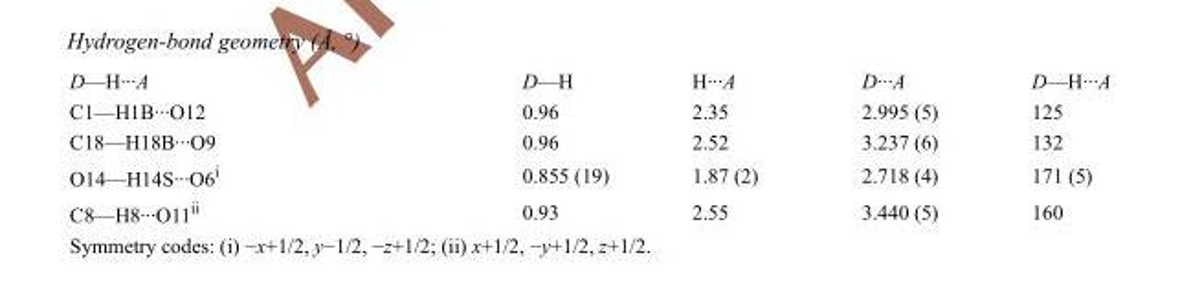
<table><tbody><tr><td>D—H···A</td><td>D—H</td><td>H···A</td><td>D···A</td><td>D—H···A</td></tr><tr><td>C1—H1B···O12</td><td>0.96</td><td>2.35</td><td>2.995 (5)</td><td>125</td></tr><tr><td>C18—H18B···O9</td><td>0.96</td><td>2.52</td><td>3.237 (6)</td><td>132</td></tr><tr><td>O14—H14S···O6i</td><td>0.855 (19)</td><td>1.87 (2)</td><td>2.718 (4)</td><td>171 (5)</td></tr><tr><td>C8—H8···O11ii</td><td>0.93</td><td>2.55</td><td>3.440 (5)</td><td>160</td></tr></tbody></table>